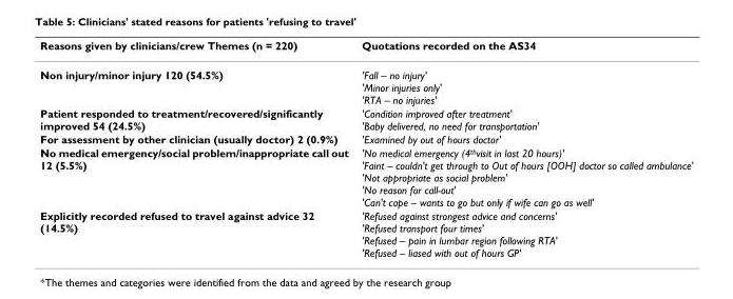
<table><thead><tr><td>Reasons given by clinicians/crew Themes (n = 220)</td><td>Quotations recorded on the AS34</td></tr></thead><tbody><tr><td>Non injury/minor injury 120 (54.5%)</td><td>&#x27;Fall – no injury&#x27; &#x27;Minor injuries only&#x27; &#x27;RTA – no injuries&#x27;</td></tr><tr><td>Patient responded to treatment/recovered/significantly improved 54 (24.5%)</td><td>&#x27;Condition improved after treatment&#x27; &#x27;Baby delivered, no need for transportation&#x27;</td></tr><tr><td>For assessment by other clinician (usually doctor) 2 (0.9%)</td><td>&#x27;Examined by out of hours doctor&#x27;</td></tr><tr><td>No medical emergency/social problem/inappropriate call out 12 (5.5%)</td><td>&#x27;No medical emergency (4<sup>th</sup>visit in last 20 hours)&#x27; &#x27;Faint – couldn&#x27;t get through to Out of hours [OOH] doctor so called ambulance&#x27; &#x27;Not appropriate as social problem&#x27; &#x27;No reason for call-out&#x27; &#x27;Can&#x27;t cope – wants to go but only if wife can go as well&#x27;</td></tr><tr><td>Explicitly recorded refused to travel against advice 32 (14.5%)</td><td>&#x27;Refused against strongest advice and concerns&#x27; &#x27;Refused transport four times&#x27; &#x27;Refused – pain in lumbar region following RTA&#x27; &#x27;Refused – liased with out of hours GP&#x27;</td></tr></tbody></table>